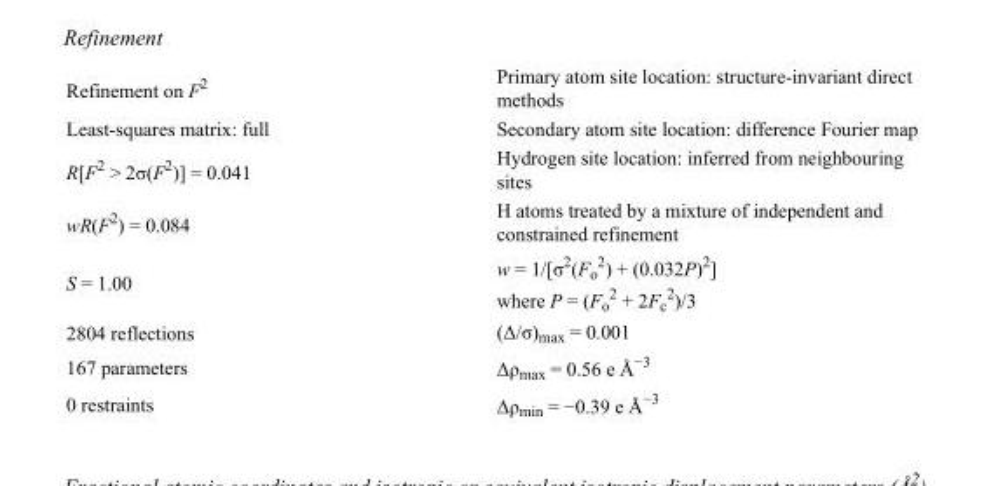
<table><tbody><tr><td>Refinement on F<sup>2</sup></td><td>Primary atom site location: structure-invariant direct methods</td></tr><tr><td>Least-squares matrix: full</td><td>Secondary atom site location: difference Fourier map</td></tr><tr><td>R[F<sup>2</sup> &gt; 2σ(F<sup>2</sup>)] = 0.041</td><td>Hydrogen site location: inferred from neighbouring sites</td></tr><tr><td>wR(F<sup>2</sup>) = 0.084</td><td>H atoms treated by a mixture of independent and constrained refinement</td></tr><tr><td>S = 1.00</td><td>w = 1/[σ<sup>2</sup>(F<sub>o</sub> <sup>2</sup>) + (0.032P)<sup>2</sup>] where P = (F<sub>o</sub> <sup>2</sup> + 2F<sub>c</sub> <sup>2</sup>)/3</td></tr><tr><td>2804 reflections</td><td>(Δ/σ)<sub>max</sub> = 0.001</td></tr><tr><td>167 parameters</td><td>Δρ<sub>max</sub> = 0.56 e Å<sup>−3</sup></td></tr><tr><td>0 restraints</td><td>Δρ<sub>min</sub> = −0.39 e Å<sup>−3</sup></td></tr></tbody></table>